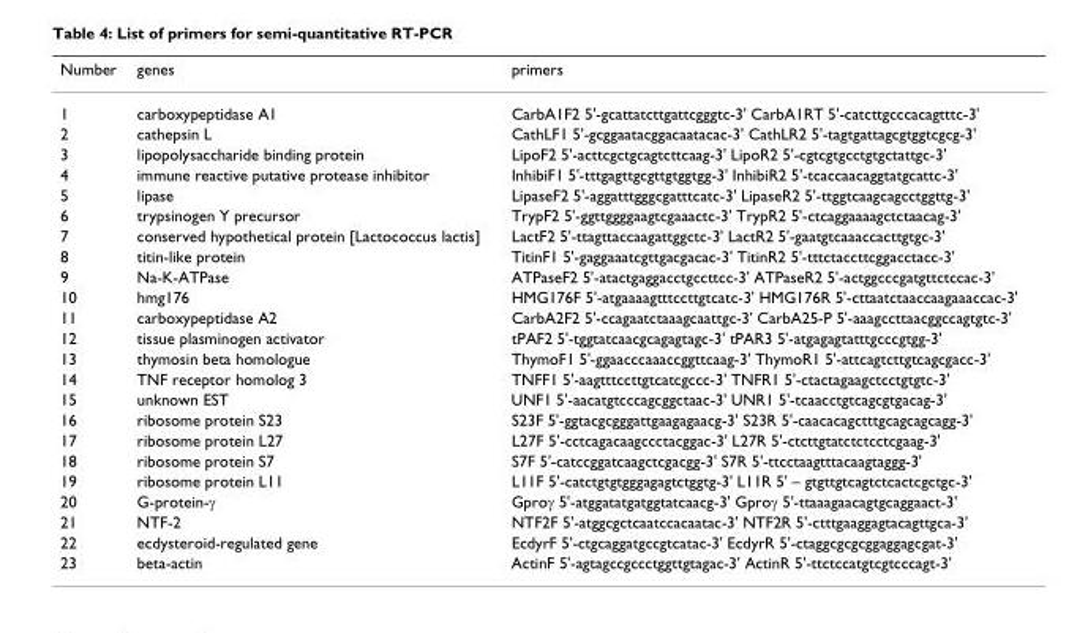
<table><thead><tr><td>Number</td><td>genes</td><td>primers</td></tr></thead><tbody><tr><td>1</td><td>carboxypeptidase A1</td><td>CarbA1F2 5&#x27;-gcattatcttgattcgggtc-3&#x27; CarbA1RT 5&#x27;-catcttgcccacagtttc-3&#x27;</td></tr><tr><td>2</td><td>cathepsin L</td><td>CathLF1 5&#x27;-gcggaatacggacaatacac-3&#x27; CathLR2 5&#x27;-tagtgattagcgtggtcgcg-3&#x27;</td></tr><tr><td>3</td><td>lipopolysaccharide binding protein</td><td>LipoF2 5&#x27;-acttcgctgcagtcttcaag-3&#x27; LipoR2 5&#x27;-cgtcgtgcctgtgctattgc-3&#x27;</td></tr><tr><td>4</td><td>immune reactive putative protease inhibitor</td><td>InhibiF1 5&#x27;-tttgagttgcgttgtggtgg-3&#x27; InhibiR2 5&#x27;-tcaccaacaggtatgcattc-3&#x27;</td></tr><tr><td>5</td><td>lipase</td><td>LipaseF2 5&#x27;-aggatttgggcgatttcatc-3&#x27; LipaseR2 5&#x27;-ttggtcaagcagcctggttg-3&#x27;</td></tr><tr><td>6</td><td>trypsinogen Y precursor</td><td>TrypF2 5&#x27;-ggttggggaagtcgaaactc-3&#x27; TrypR2 5&#x27;-ctcaggaaaagctctaacag-3&#x27;</td></tr><tr><td>7</td><td>conserved hypothetical protein [Lactococcus lactis]</td><td>LactF2 5&#x27;-ttagttaccaagattggctc-3&#x27; LactR2 5&#x27;-gaatgtcaaaccacttgtgc-3&#x27;</td></tr><tr><td>8</td><td>titin-like protein</td><td>TitinF1 5&#x27;-gaggaaatcgttgacgacac-3&#x27; TitinR2 5&#x27;-tttctaccttcggacctacc-3&#x27;</td></tr><tr><td>9</td><td>Na-K-ATPase</td><td>ATPaseF2 5&#x27;-atactgaggacctgccttcc-3&#x27; ATPaseR2 5&#x27;-actggcccgatgttctccac-3&#x27;</td></tr><tr><td>10</td><td>hmg176</td><td>HMG176F 5&#x27;-atgaaaagtttccttgtcatc-3&#x27; HMG176R 5&#x27;-cttaatctaaccaagaaaccac-3&#x27;</td></tr><tr><td>11</td><td>carboxypeptidase A2</td><td>CarbA2F2 5&#x27;-ccagaatctaaagcaattgc-3&#x27; CarbA25-P 5&#x27;-aaagccttaacggccagtgtc-3&#x27;</td></tr><tr><td>12</td><td>tissue plasminogen activator</td><td>tPAF2 5&#x27;-tggtatcaacgcagagtagc-3&#x27; tPAR3 5&#x27;-atgagagtatttgcccgtgg-3&#x27;</td></tr><tr><td>13</td><td>thymosin beta homologue</td><td>ThymoF1 5&#x27;-ggaacccaaaccggttcaag-3&#x27; ThymoR1 5&#x27;-attcagtcttgtcagcgacc-3&#x27;</td></tr><tr><td>14</td><td>TNF receptor homolog 3</td><td>TNFF1 5&#x27;-aagtttccttgtcatcgccc-3&#x27; TNFR1 5&#x27;-ctactagaagctcctgtgtc-3&#x27;</td></tr><tr><td>15</td><td>unknown EST</td><td>UNF1 5&#x27;-aacatgtcccagcggctaac-3&#x27; UNR1 5&#x27;-tcaacctgtcagcgtgacag-3&#x27;</td></tr><tr><td>16</td><td>ribosome protein S23</td><td>S23F 5&#x27;-ggtacgcgggattgaagagaacg-3&#x27; S23R 5&#x27;-caacacagctttgcagcagcagg-3&#x27;</td></tr><tr><td>17</td><td>ribosome protein L27</td><td>L27F 5&#x27;-cctcagacaagccctacggac-3&#x27; L27R 5&#x27;-ctcttgtatctctcctcgaag-3&#x27;</td></tr><tr><td>18</td><td>ribosome protein S7</td><td>S7F 5&#x27;-catccggatcaagctcgacgg-3&#x27; S7R 5&#x27;-ttcctaagtttacaagtaggg-3&#x27;</td></tr><tr><td>19</td><td>ribosome protein L11</td><td>L11F 5&#x27;-catctgtgtgggagagtctggtg-3&#x27; L11R 5&#x27; – gtgttgtcagtctcactcgctgc-3&#x27;</td></tr><tr><td>20</td><td>G-protein-γ</td><td>Gproγ 5&#x27;-atggatatgatggtatcaacg-3&#x27; Gproγ 5&#x27;-ttaaagaacagtgcaggaact-3&#x27;</td></tr><tr><td>21</td><td>NTF-2</td><td>NTF2F 5&#x27;-atggcgctcaatccacaatac-3&#x27; NTF2R 5&#x27;-ctttgaaggagtacagttgca-3&#x27;</td></tr><tr><td>22</td><td>ecdysteroid-regulated gene</td><td>EcdyrF 5&#x27;-ctgcaggatgccgtcatac-3&#x27; EcdyrR 5&#x27;-ctaggcgcgcggaggagcgat-3&#x27;</td></tr><tr><td>23</td><td>beta-actin</td><td>ActinF 5&#x27;-agtagccgccctggttgtagac-3&#x27; ActinR 5&#x27;-ttctccatgtcgtcccagt-3&#x27;</td></tr></tbody></table>